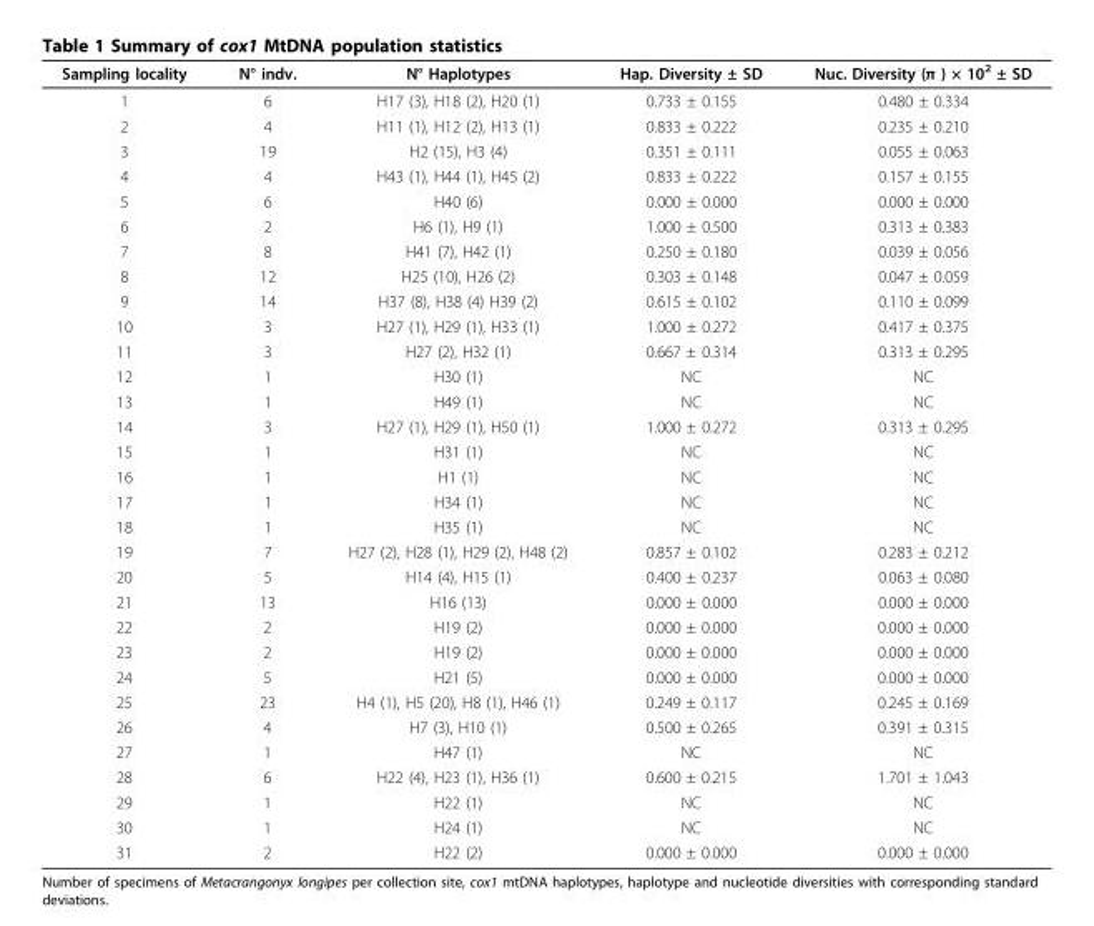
<table><thead><tr><td>Sampling locality</td><td>N° indv.</td><td>N° Haplotypes</td><td>Hap. Diversity ± SD</td><td>Nuc. Diversity (π ) × 10<sup>2</sup> ± SD</td></tr></thead><tbody><tr><td>1</td><td>6</td><td>H17 (3), H18 (2), H20 (1)</td><td>0.733 ± 0.155</td><td>0.480 ± 0.334</td></tr><tr><td>2</td><td>4</td><td>H11 (1), H12 (2), H13 (1)</td><td>0.833 ± 0.222</td><td>0.235 ± 0.210</td></tr><tr><td>3</td><td>19</td><td>H2 (15), H3 (4)</td><td>0.351 ± 0.111</td><td>0.055 ± 0.063</td></tr><tr><td>4</td><td>4</td><td>H43 (1), H44 (1), H45 (2)</td><td>0.833 ± 0.222</td><td>0.157 ± 0.155</td></tr><tr><td>5</td><td>6</td><td>H40 (6)</td><td>0.000 ± 0.000</td><td>0.000 ± 0.000</td></tr><tr><td>6</td><td>2</td><td>H6 (1), H9 (1)</td><td>1.000 ± 0.500</td><td>0.313 ± 0.383</td></tr><tr><td>7</td><td>8</td><td>H41 (7), H42 (1)</td><td>0.250 ± 0.180</td><td>0.039 ± 0.056</td></tr><tr><td>8</td><td>12</td><td>H25 (10), H26 (2)</td><td>0.303 ± 0.148</td><td>0.047 ± 0.059</td></tr><tr><td>9</td><td>14</td><td>H37 (8), H38 (4) H39 (2)</td><td>0.615 ± 0.102</td><td>0.110 ± 0.099</td></tr><tr><td>10</td><td>3</td><td>H27 (1), H29 (1), H33 (1)</td><td>1.000 ± 0.272</td><td>0.417 ± 0.375</td></tr><tr><td>11</td><td>3</td><td>H27 (2), H32 (1)</td><td>0.667 ± 0.314</td><td>0.313 ± 0.295</td></tr><tr><td>12</td><td>1</td><td>H30 (1)</td><td>NC</td><td>NC</td></tr><tr><td>13</td><td>1</td><td>H49 (1)</td><td>NC</td><td>NC</td></tr><tr><td>14</td><td>3</td><td>H27 (1), H29 (1), H50 (1)</td><td>1.000 ± 0.272</td><td>0.313 ± 0.295</td></tr><tr><td>15</td><td>1</td><td>H31 (1)</td><td>NC</td><td>NC</td></tr><tr><td>16</td><td>1</td><td>H1 (1)</td><td>NC</td><td>NC</td></tr><tr><td>17</td><td>1</td><td>H34 (1)</td><td>NC</td><td>NC</td></tr><tr><td>18</td><td>1</td><td>H35 (1)</td><td>NC</td><td>NC</td></tr><tr><td>19</td><td>7</td><td>H27 (2), H28 (1), H29 (2), H48 (2)</td><td>0.857 ± 0.102</td><td>0.283 ± 0.212</td></tr><tr><td>20</td><td>5</td><td>H14 (4), H15 (1)</td><td>0.400 ± 0.237</td><td>0.063 ± 0.080</td></tr><tr><td>21</td><td>13</td><td>H16 (13)</td><td>0.000 ± 0.000</td><td>0.000 ± 0.000</td></tr><tr><td>22</td><td>2</td><td>H19 (2)</td><td>0.000 ± 0.000</td><td>0.000 ± 0.000</td></tr><tr><td>23</td><td>2</td><td>H19 (2)</td><td>0.000 ± 0.000</td><td>0.000 ± 0.000</td></tr><tr><td>24</td><td>5</td><td>H21 (5)</td><td>0.000 ± 0.000</td><td>0.000 ± 0.000</td></tr><tr><td>25</td><td>23</td><td>H4 (1), H5 (20), H8 (1), H46 (1)</td><td>0.249 ± 0.117</td><td>0.245 ± 0.169</td></tr><tr><td>26</td><td>4</td><td>H7 (3), H10 (1)</td><td>0.500 ± 0.265</td><td>0.391 ± 0.315</td></tr><tr><td>27</td><td>1</td><td>H47 (1)</td><td>NC</td><td>NC</td></tr><tr><td>28</td><td>6</td><td>H22 (4), H23 (1), H36 (1)</td><td>0.600 ± 0.215</td><td>1.701 ± 1.043</td></tr><tr><td>29</td><td>1</td><td>H22 (1)</td><td>NC</td><td>NC</td></tr><tr><td>30</td><td>1</td><td>H24 (1)</td><td>NC</td><td>NC</td></tr><tr><td>31</td><td>2</td><td>H22 (2)</td><td>0.000 ± 0.000</td><td>0.000 ± 0.000</td></tr></tbody></table>